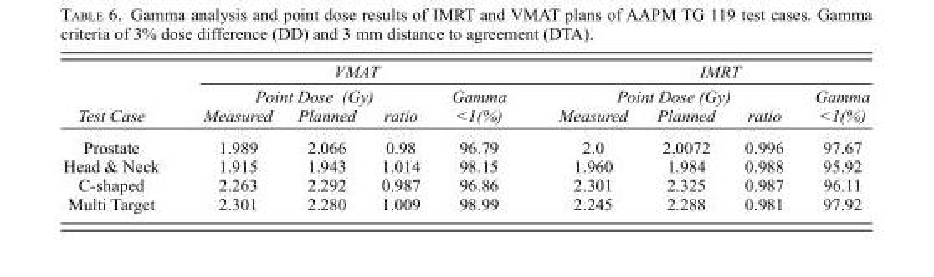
<table><thead><tr><td rowspan="3">Test Case</td><td colspan="4">VMAT</td><td colspan="4">IMRT</td></tr><tr><td colspan="3">Point Dose (Gy)</td><td rowspan="2">Gamma &lt;1(%)</td><td colspan="3">Point Dose (Gy)</td><td rowspan="2">Gamma &lt;1(%)</td></tr><tr><td>Measured</td><td>Planned</td><td>ratio</td><td>Measured</td><td>Planned</td><td>ratio</td></tr></thead><tbody><tr><td>Prostate</td><td>1.989</td><td>2.066</td><td>0.98</td><td>96.79</td><td>2.0</td><td>2.0072</td><td>0.996</td><td>97.67</td></tr><tr><td>Head &amp; Neck</td><td>1.915</td><td>1.943</td><td>1.014</td><td>98.15</td><td>1.960</td><td>1.984</td><td>0.988</td><td>95.92</td></tr><tr><td>C-shaped</td><td>2.263</td><td>2.292</td><td>0.987</td><td>96.86</td><td>2.301</td><td>2.325</td><td>0.987</td><td>96.11</td></tr><tr><td>Multi Target</td><td>2.301</td><td>2.280</td><td>1.009</td><td>98.99</td><td>2.245</td><td>2.288</td><td>0.981</td><td>97.92</td></tr></tbody></table>